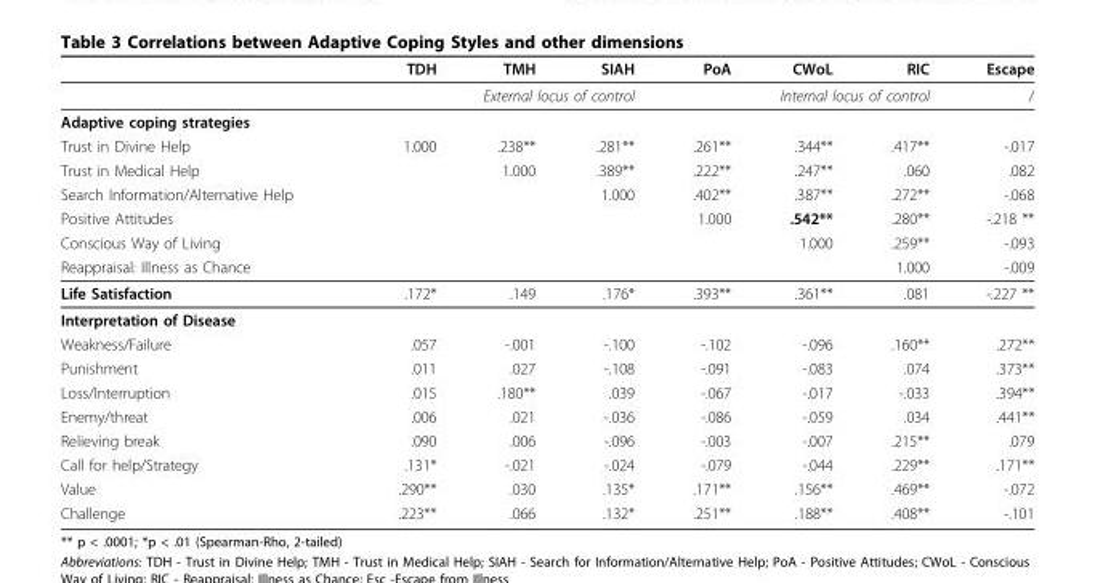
<table><thead><tr><td></td><td>TDH</td><td>TMH</td><td>SIAH</td><td>PoA</td><td>CWoL</td><td>RIC</td><td>Escape</td></tr></thead><tbody><tr><td></td><td colspan="3">External locus of control</td><td colspan="3">Internal locus of control</td><td>/</td></tr><tr><td colspan="8">Adaptive coping strategies</td></tr><tr><td>Trust in Divine Help</td><td>1.000</td><td>.238**</td><td>.281**</td><td>.261**</td><td>.344**</td><td>.417**</td><td>-.017</td></tr><tr><td>Trust in Medical Help</td><td></td><td>1.000</td><td>.389**</td><td>.222**</td><td>.247**</td><td>.060</td><td>.082</td></tr><tr><td>Search Information/Alternative Help</td><td></td><td></td><td>1.000</td><td>.402**</td><td>.387**</td><td>.272**</td><td>-.068</td></tr><tr><td>Positive Attitudes</td><td></td><td></td><td></td><td>1.000</td><td>.542**</td><td>.280**</td><td>-.218 **</td></tr><tr><td>Conscious Way of Living</td><td></td><td></td><td></td><td></td><td>1.000</td><td>.259**</td><td>-.093</td></tr><tr><td>Reappraisal: Illness as Chance</td><td></td><td></td><td></td><td></td><td></td><td>1.000</td><td>-.009</td></tr><tr><td>Life Satisfaction</td><td>.172*</td><td>.149</td><td>.176*</td><td>.393**</td><td>.361**</td><td>.081</td><td>-.227 **</td></tr><tr><td colspan="8">Interpretation of Disease</td></tr><tr><td>Weakness/Failure</td><td>.057</td><td>-.001</td><td>-.100</td><td>-.102</td><td>-.096</td><td>.160**</td><td>.272**</td></tr><tr><td>Punishment</td><td>.011</td><td>.027</td><td>-.108</td><td>-.091</td><td>-.083</td><td>.074</td><td>.373**</td></tr><tr><td>Loss/Interruption</td><td>.015</td><td>.180**</td><td>.039</td><td>-.067</td><td>-.017</td><td>-.033</td><td>.394**</td></tr><tr><td>Enemy/threat</td><td>.006</td><td>.021</td><td>-.036</td><td>-.086</td><td>-.059</td><td>.034</td><td>.441**</td></tr><tr><td>Relieving break</td><td>.090</td><td>.006</td><td>-.096</td><td>-.003</td><td>-.007</td><td>.215**</td><td>.079</td></tr><tr><td>Call for help/Strategy</td><td>.131*</td><td>-.021</td><td>-.024</td><td>-.079</td><td>-.044</td><td>.229**</td><td>.171**</td></tr><tr><td>Value</td><td>.290**</td><td>.030</td><td>.135*</td><td>.171**</td><td>.156**</td><td>.469**</td><td>-.072</td></tr><tr><td>Challenge</td><td>.223**</td><td>.066</td><td>.132*</td><td>.251**</td><td>.188**</td><td>.408**</td><td>-.101</td></tr></tbody></table>